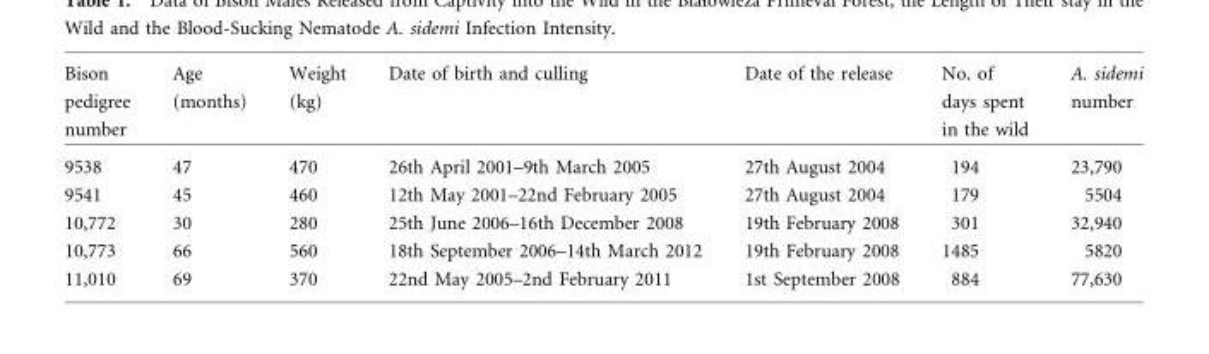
<table><thead><tr><td>Bison pedigree number</td><td>Age (months)</td><td>Weight (kg)</td><td>Date of birth and culling</td><td>Date of the release</td><td>No. of days spent in the wild</td><td>A. sidemi number</td></tr></thead><tbody><tr><td>9538</td><td>47</td><td>470</td><td>26th April 2001–9th March 2005</td><td>27th August 2004</td><td>194</td><td>23,790</td></tr><tr><td>9541</td><td>45</td><td>460</td><td>12th May 2001–22nd February 2005</td><td>27th August 2004</td><td>179</td><td>5504</td></tr><tr><td>10,772</td><td>30</td><td>280</td><td>25th June 2006–16th December 2008</td><td>19th February 2008</td><td>301</td><td>32,940</td></tr><tr><td>10,773</td><td>66</td><td>560</td><td>18th September 2006–14th March 2012</td><td>19th February 2008</td><td>1485</td><td>5820</td></tr><tr><td>11,010</td><td>69</td><td>370</td><td>22nd May 2005–2nd February 2011</td><td>1st September 2008</td><td>884</td><td>77,630</td></tr></tbody></table>